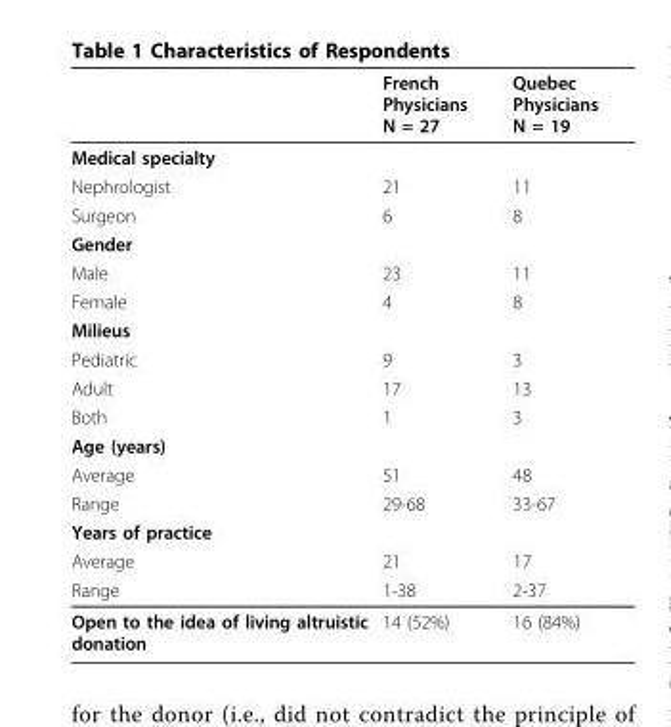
<table><thead><tr><td></td><td>French Physicians N = 27</td><td>Quebec Physicians N = 19</td></tr></thead><tbody><tr><td colspan="3">Medical specialty</td></tr><tr><td>Nephrologist</td><td>21</td><td>11</td></tr><tr><td>Surgeon</td><td>6</td><td>8</td></tr><tr><td colspan="3">Gender</td></tr><tr><td>Male</td><td>23</td><td>11</td></tr><tr><td>Female</td><td>4</td><td>8</td></tr><tr><td colspan="3">Milieus</td></tr><tr><td>Pediatric</td><td>9</td><td>3</td></tr><tr><td>Adult</td><td>17</td><td>13</td></tr><tr><td>Both</td><td>1</td><td>3</td></tr><tr><td colspan="3">Age (years)</td></tr><tr><td>Average</td><td>51</td><td>48</td></tr><tr><td>Range</td><td>29-68</td><td>33-67</td></tr><tr><td colspan="3">Years of practice</td></tr><tr><td>Average</td><td>21</td><td>17</td></tr><tr><td>Range</td><td>1-38</td><td>2-37</td></tr><tr><td>Open to the idea of living altruistic donation</td><td>14 (52%)</td><td>16 (84%)</td></tr></tbody></table>